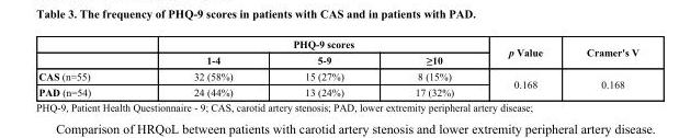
<table><thead><tr><td rowspan="2"></td><td colspan="3">PHQ-9 scores</td><td rowspan="2">p Value</td><td rowspan="2">Cramer&#x27;s V</td></tr><tr><td>1-4</td><td>5-9</td><td>≥10</td></tr></thead><tbody><tr><td>CAS (n=55)</td><td>32 (58%)</td><td>15 (27%)</td><td>8 (15%)</td><td rowspan="2">0.168</td><td rowspan="2">0.168</td></tr><tr><td>PAD (n=54)</td><td>24 (44%)</td><td>13 (24%)</td><td>17 (32%)</td></tr></tbody></table>